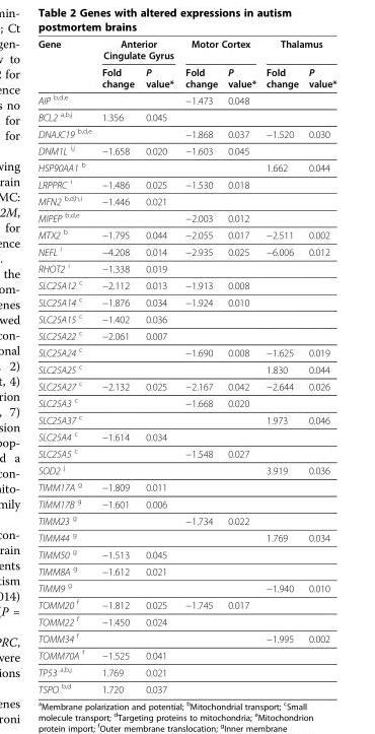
<table><thead><tr><td rowspan="2">Gene</td><td colspan="2">Anterior Cingulate Gyrus</td><td colspan="2">Motor Cortex</td><td colspan="2">Thalamus</td></tr><tr><td>Fold change</td><td>P value*</td><td>Fold change</td><td>P value*</td><td>Fold change</td><td>P value*</td></tr></thead><tbody><tr><td>AIP <sup>b,d,e</sup></td><td></td><td></td><td>−1.473</td><td>0.048</td><td></td><td></td></tr><tr><td>BCL2 <sup>a,b,j</sup></td><td>1.356</td><td>0.045</td><td></td><td></td><td></td><td></td></tr><tr><td>DNAJC19 <sup>b,d,e</sup></td><td></td><td></td><td>−1.868</td><td>0.037</td><td>−1.520</td><td>0.030</td></tr><tr><td>DNM1L <sup>i,j</sup></td><td>−1.658</td><td>0.020</td><td>−1.603</td><td>0.045</td><td></td><td></td></tr><tr><td>HSP90AA1 <sup>b</sup></td><td></td><td></td><td></td><td></td><td>1.662</td><td>0.044</td></tr><tr><td>LRPPRC <sup>i</sup></td><td>−1.486</td><td>0.025</td><td>−1.530</td><td>0.018</td><td></td><td></td></tr><tr><td>MFN2 <sup>b,d,h,i</sup></td><td>−1.446</td><td>0.021</td><td></td><td></td><td></td><td></td></tr><tr><td>MIPEP <sup>b,d,e</sup></td><td></td><td></td><td>−2.003</td><td>0.012</td><td></td><td></td></tr><tr><td>MTX2 <sup>b</sup></td><td>−1.795</td><td>0.044</td><td>−2.055</td><td>0.017</td><td>−2.511</td><td>0.002</td></tr><tr><td>NEFL <sup>i</sup></td><td>−4.208</td><td>0.014</td><td>−2.935</td><td>0.025</td><td>−6.006</td><td>0.012</td></tr><tr><td>RHOT2 <sup>i</sup></td><td>−1.338</td><td>0.019</td><td></td><td></td><td></td><td></td></tr><tr><td>SLC25A12 <sup>c</sup></td><td>−2.112</td><td>0.013</td><td>−1.913</td><td>0.008</td><td></td><td></td></tr><tr><td>SLC25A14 <sup>c</sup></td><td>−1.876</td><td>0.034</td><td>−1.924</td><td>0.010</td><td></td><td></td></tr><tr><td>SLC25A15 <sup>c</sup></td><td>−1.402</td><td>0.036</td><td></td><td></td><td></td><td></td></tr><tr><td>SLC25A22 <sup>c</sup></td><td>−2.061</td><td>0.007</td><td></td><td></td><td></td><td></td></tr><tr><td>SLC25A24 <sup>c</sup></td><td></td><td></td><td>−1.690</td><td>0.008</td><td>−1.625</td><td>0.019</td></tr><tr><td>SLC25A25 <sup>c</sup></td><td></td><td></td><td></td><td></td><td>1.830</td><td>0.044</td></tr><tr><td>SLC25A27 <sup>c</sup></td><td>−2.132</td><td>0.025</td><td>−2.167</td><td>0.042</td><td>−2.644</td><td>0.026</td></tr><tr><td>SLC25A3 <sup>c</sup></td><td></td><td></td><td>−1.668</td><td>0.020</td><td></td><td></td></tr><tr><td>SLC25A37 <sup>c</sup></td><td></td><td></td><td></td><td></td><td>1.973</td><td>0.046</td></tr><tr><td>SLC25A4 <sup>c</sup></td><td>−1.614</td><td>0.034</td><td></td><td></td><td></td><td></td></tr><tr><td>SLC25A5 <sup>c</sup></td><td></td><td></td><td>−1.548</td><td>0.027</td><td></td><td></td></tr><tr><td>SOD2 <sup>j</sup></td><td></td><td></td><td></td><td></td><td>3.919</td><td>0.036</td></tr><tr><td>TIMM17A <sup>g</sup></td><td>−1.809</td><td>0.011</td><td></td><td></td><td></td><td></td></tr><tr><td>TIMM17B <sup>g</sup></td><td>−1.601</td><td>0.006</td><td></td><td></td><td></td><td></td></tr><tr><td>TIMM23 <sup>g</sup></td><td></td><td></td><td>−1.734</td><td>0.022</td><td></td><td></td></tr><tr><td>TIMM44 <sup>g</sup></td><td></td><td></td><td></td><td></td><td>1.769</td><td>0.034</td></tr><tr><td>TIMM50 <sup>g</sup></td><td>−1.513</td><td>0.045</td><td></td><td></td><td></td><td></td></tr><tr><td>TIMM8A <sup>g</sup></td><td>−1.612</td><td>0.021</td><td></td><td></td><td></td><td></td></tr><tr><td>TIMM9 <sup>g</sup></td><td></td><td></td><td></td><td></td><td>−1.940</td><td>0.010</td></tr><tr><td>TOMM20 <sup>f</sup></td><td>−1.812</td><td>0.025</td><td>−1.745</td><td>0.017</td><td></td><td></td></tr><tr><td>TOMM22 <sup>f</sup></td><td>−1.450</td><td>0.024</td><td></td><td></td><td></td><td></td></tr><tr><td>TOMM34 <sup>f</sup></td><td></td><td></td><td></td><td></td><td>−1.995</td><td>0.002</td></tr><tr><td>TOMM70A <sup>f</sup></td><td>−1.525</td><td>0.041</td><td></td><td></td><td></td><td></td></tr><tr><td>TP53 <sup>a,b,j</sup></td><td>1.769</td><td>0.021</td><td></td><td></td><td></td><td></td></tr><tr><td>TSPO <sup>b,d</sup></td><td>1.720</td><td>0.037</td><td></td><td></td><td></td><td></td></tr></tbody></table>